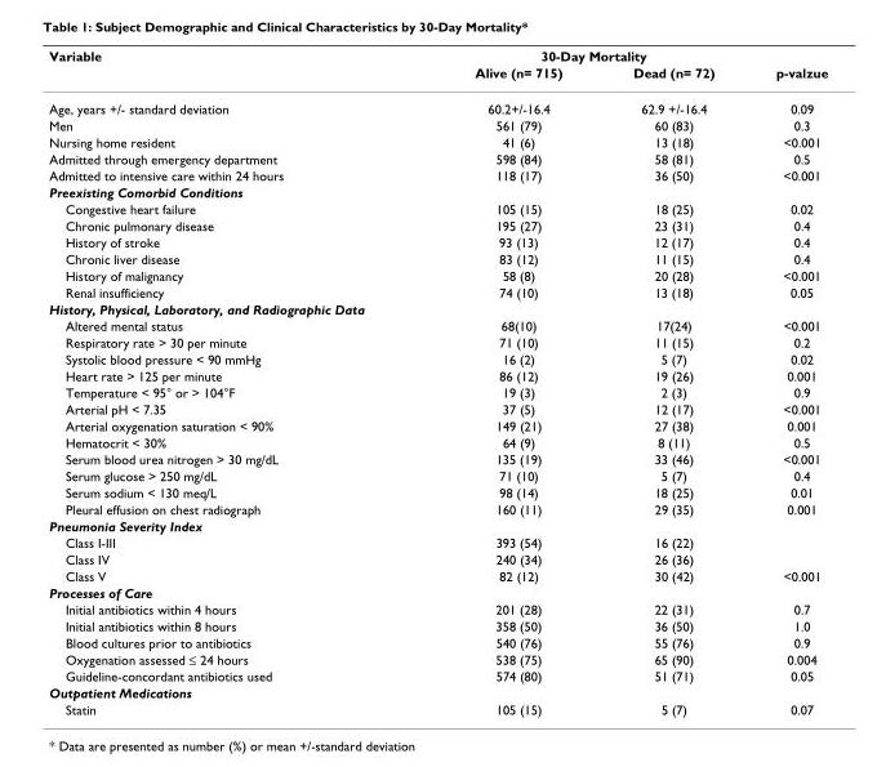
<table><thead><tr><td rowspan="2">Variable</td><td colspan="2">30-Day Mortality</td><td rowspan="2">p-valzue</td></tr><tr><td>Alive (n= 715)</td><td>Dead (n= 72)</td></tr></thead><tbody><tr><td>Age, years +/- standard deviation</td><td>60.2+/-16.4</td><td>62.9 +/-16.4</td><td>0.09</td></tr><tr><td>Men</td><td>561 (79)</td><td>60 (83)</td><td>0.3</td></tr><tr><td>Nursing home resident</td><td>41 (6)</td><td>13 (18)</td><td>&lt;0.001</td></tr><tr><td>Admitted through emergency department</td><td>598 (84)</td><td>58 (81)</td><td>0.5</td></tr><tr><td>Admitted to intensive care within 24 hours</td><td>118 (17)</td><td>36 (50)</td><td>&lt;0.001</td></tr><tr><td colspan="4">Preexisting Comorbid Conditions</td></tr><tr><td>Congestive heart failure</td><td>105 (15)</td><td>18 (25)</td><td>0.02</td></tr><tr><td>Chronic pulmonary disease</td><td>195 (27)</td><td>23 (31)</td><td>0.4</td></tr><tr><td>History of stroke</td><td>93 (13)</td><td>12 (17)</td><td>0.4</td></tr><tr><td>Chronic liver disease</td><td>83 (12)</td><td>11 (15)</td><td>0.4</td></tr><tr><td>History of malignancy</td><td>58 (8)</td><td>20 (28)</td><td>&lt;0.001</td></tr><tr><td>Renal insufficiency</td><td>74 (10)</td><td>13 (18)</td><td>0.05</td></tr><tr><td colspan="4">History, Physical, Laboratory, and Radiographic Data</td></tr><tr><td>Altered mental status</td><td>68(10)</td><td>17(24)</td><td>&lt;0.001</td></tr><tr><td>Respiratory rate &gt; 30 per minute</td><td>71 (10)</td><td>11 (15)</td><td>0.2</td></tr><tr><td>Systolic blood pressure &lt; 90 mmHg</td><td>16 (2)</td><td>5 (7)</td><td>0.02</td></tr><tr><td>Heart rate &gt; 125 per minute</td><td>86 (12)</td><td>19 (26)</td><td>0.001</td></tr><tr><td>Temperature &lt; 95° or &gt; 104°F</td><td>19 (3)</td><td>2 (3)</td><td>0.9</td></tr><tr><td>Arterial pH &lt; 7.35</td><td>37 (5)</td><td>12 (17)</td><td>&lt;0.001</td></tr><tr><td>Arterial oxygenation saturation &lt; 90%</td><td>149 (21)</td><td>27 (38)</td><td>0.001</td></tr><tr><td>Hematocrit &lt; 30%</td><td>64 (9)</td><td>8 (11)</td><td>0.5</td></tr><tr><td>Serum blood urea nitrogen &gt; 30 mg/dL</td><td>135 (19)</td><td>33 (46)</td><td>&lt;0.001</td></tr><tr><td>Serum glucose &gt; 250 mg/dL</td><td>71 (10)</td><td>5 (7)</td><td>0.4</td></tr><tr><td>Serum sodium &lt; 130 meq/L</td><td>98 (14)</td><td>18 (25)</td><td>0.01</td></tr><tr><td>Pleural effusion on chest radiograph</td><td>160 (11)</td><td>29 (35)</td><td>0.001</td></tr><tr><td colspan="4">Pneumonia Severity Index</td></tr><tr><td>Class I-III</td><td>393 (54)</td><td>16 (22)</td><td></td></tr><tr><td>Class IV</td><td>240 (34)</td><td>26 (36)</td><td></td></tr><tr><td>Class V</td><td>82 (12)</td><td>30 (42)</td><td>&lt;0.001</td></tr><tr><td colspan="4">Processes of Care</td></tr><tr><td>Initial antibiotics within 4 hours</td><td>201 (28)</td><td>22 (31)</td><td>0.7</td></tr><tr><td>Initial antibiotics within 8 hours</td><td>358 (50)</td><td>36 (50)</td><td>1.0</td></tr><tr><td>Blood cultures prior to antibiotics</td><td>540 (76)</td><td>55 (76)</td><td>0.9</td></tr><tr><td>Oxygenation assessed ≤ 24 hours</td><td>538 (75)</td><td>65 (90)</td><td>0.004</td></tr><tr><td>Guideline-concordant antibiotics used</td><td>574 (80)</td><td>51 (71)</td><td>0.05</td></tr><tr><td colspan="4">Outpatient Medications</td></tr><tr><td>Statin</td><td>105 (15)</td><td>5 (7)</td><td>0.07</td></tr></tbody></table>